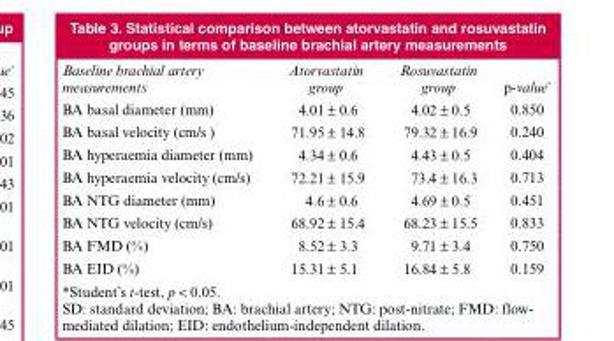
<table><thead><tr><td>Baseline brachial artery measurements</td><td>Atorvastatin group</td><td>Rosuvastatin group</td><td>p-value*</td></tr></thead><tbody><tr><td>BA basal diameter (mm)</td><td>4.01 ± 0.6</td><td>4.02 ± 0.5</td><td>0.850</td></tr><tr><td>BA basal velocity (cm/s )</td><td>71.95 ± 14.8</td><td>79.32 ± 16.9</td><td>0.240</td></tr><tr><td>BA hyperaemia diameter (mm)</td><td>4.34 ± 0.6</td><td>4.43 ± 0.5</td><td>0.404</td></tr><tr><td>BA hyperaemia velocity (cm/s)</td><td>72.21 ± 15.9</td><td>73.4 ± 16.3</td><td>0.713</td></tr><tr><td>BA NTG diameter (mm)</td><td>4.6 ± 0.6</td><td>4.69 ± 0.5</td><td>0.451</td></tr><tr><td>BA NTG velocity (cm/s)</td><td>68.92 ± 15.4</td><td>68.23 ± 15.5</td><td>0.833</td></tr><tr><td>BA FMD (%)</td><td>8.52 ± 3.3</td><td>9.71 ± 3.4</td><td>0.750</td></tr><tr><td>BA EID (%)</td><td>15.31 ± 5.1</td><td>16.84 ± 5.8</td><td>0.159</td></tr></tbody></table>